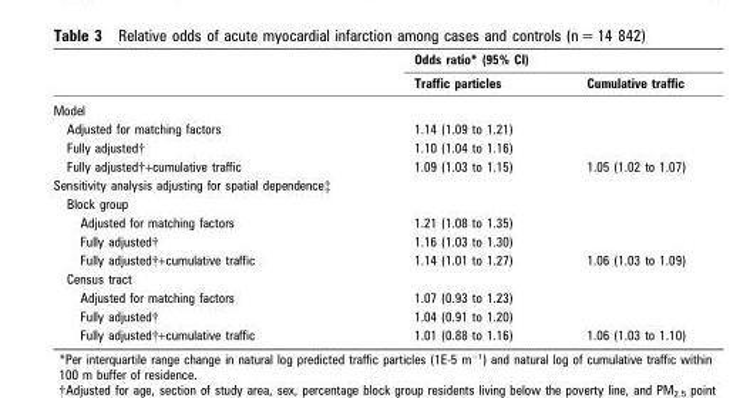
<table><thead><tr><td rowspan="2"></td><td colspan="2">Odds ratio* (95% CI)</td></tr><tr><td>Traffic particles</td><td>Cumulative traffic</td></tr></thead><tbody><tr><td colspan="3">Model</td></tr><tr><td>Adjusted for matching factors</td><td>1.14 (1.09 to 1.21)</td><td></td></tr><tr><td>Fully adjusted†</td><td>1.10 (1.04 to 1.16)</td><td></td></tr><tr><td>Fully adjusted†+cumulative traffic</td><td>1.09 (1.03 to 1.15)</td><td>1.05 (1.02 to 1.07)</td></tr><tr><td colspan="3">Sensitivity analysis adjusting for spatial dependence‡</td></tr><tr><td colspan="3">Block group</td></tr><tr><td>Adjusted for matching factors</td><td>1.21 (1.08 to 1.35)</td><td></td></tr><tr><td>Fully adjusted†</td><td>1.16 (1.03 to 1.30)</td><td></td></tr><tr><td>Fully adjusted†+cumulative traffic</td><td>1.14 (1.01 to 1.27)</td><td>1.06 (1.03 to 1.09)</td></tr><tr><td colspan="3">Census tract</td></tr><tr><td>Adjusted for matching factors</td><td>1.07 (0.93 to 1.23)</td><td></td></tr><tr><td>Fully adjusted†</td><td>1.04 (0.91 to 1.20)</td><td></td></tr><tr><td>Fully adjusted†+cumulative traffic</td><td>1.01 (0.88 to 1.16)</td><td>1.06 (1.03 to 1.10)</td></tr></tbody></table>